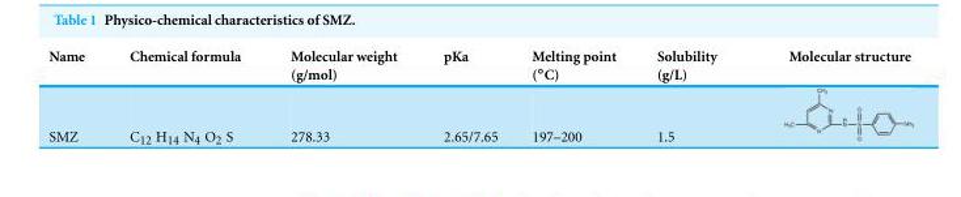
<table><thead><tr><td>Name</td><td>Chemical formula</td><td>Molecular weight (g/mol)</td><td>pKa</td><td>Melting point (◦C)</td><td>Solubility (g/L)</td><td>Molecular structure</td></tr></thead><tbody><tr><td>SMZ</td><td>C<sub>12</sub> H<sub>14</sub> N<sub>4</sub> O<sub>2</sub> S</td><td>278.33</td><td>2.65/7.65</td><td>197–200</td><td>1.5</td><td></td></tr></tbody></table>